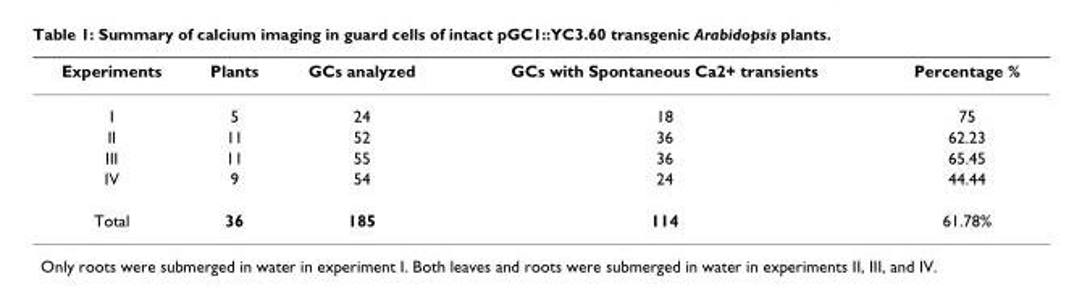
<table><thead><tr><td>Experiments</td><td>Plants</td><td>GCs analyzed</td><td>GCs with Spontaneous Ca2+ transients</td><td>Percentage %</td></tr></thead><tbody><tr><td>I</td><td>5</td><td>24</td><td>18</td><td>75</td></tr><tr><td>II</td><td>11</td><td>52</td><td>36</td><td>62.23</td></tr><tr><td>III</td><td>11</td><td>55</td><td>36</td><td>65.45</td></tr><tr><td>IV</td><td>9</td><td>54</td><td>24</td><td>44.44</td></tr><tr><td>Total</td><td>36</td><td>185</td><td>114</td><td>61.78%</td></tr></tbody></table>